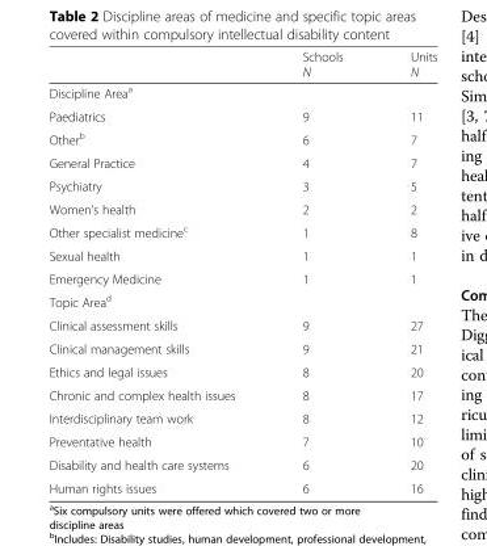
<table><thead><tr><td></td><td>Schools N</td><td>Units N</td></tr></thead><tbody><tr><td colspan="3">Discipline Area<sup>a</sup></td></tr><tr><td>Paediatrics</td><td>9</td><td>11</td></tr><tr><td>Other<sup>b</sup></td><td>6</td><td>7</td></tr><tr><td>General Practice</td><td>4</td><td>7</td></tr><tr><td>Psychiatry</td><td>3</td><td>5</td></tr><tr><td>Women’s health</td><td>2</td><td>2</td></tr><tr><td>Other specialist medicine<sup>c</sup></td><td>1</td><td>8</td></tr><tr><td>Sexual health</td><td>1</td><td>1</td></tr><tr><td>Emergency Medicine</td><td>1</td><td>1</td></tr><tr><td colspan="3">Topic Area<sup>d</sup></td></tr><tr><td>Clinical assessment skills</td><td>9</td><td>27</td></tr><tr><td>Clinical management skills</td><td>9</td><td>21</td></tr><tr><td>Ethics and legal issues</td><td>8</td><td>20</td></tr><tr><td>Chronic and complex health issues</td><td>8</td><td>17</td></tr><tr><td>Interdisciplinary team work</td><td>8</td><td>12</td></tr><tr><td>Preventative health</td><td>7</td><td>10</td></tr><tr><td>Disability and health care systems</td><td>6</td><td>20</td></tr><tr><td>Human rights issues</td><td>6</td><td>16</td></tr></tbody></table>